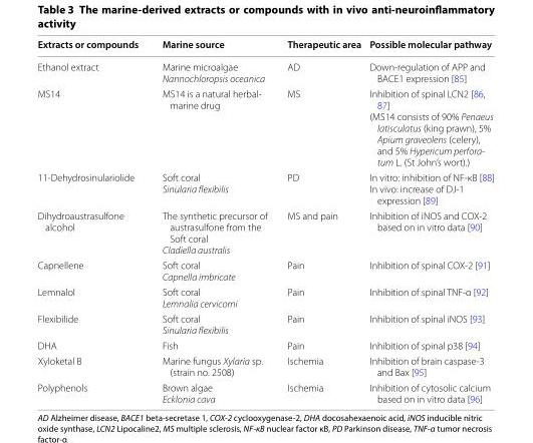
<table><thead><tr><td>Extracts or compounds</td><td>Marine source</td><td>Therapeutic area</td><td>Possible molecular pathway</td></tr></thead><tbody><tr><td>Ethanol extract</td><td>Marine microalgae Nannochloropsis oceanica</td><td>AD</td><td>Down‑regulation of APP and BACE1 expression [85]</td></tr><tr><td>MS14</td><td>MS14 is a natural herbal‑ marine drug</td><td>MS</td><td>Inhibition of spinal LCN2 [86, 87] (MS14 consists of 90% Penaeus latisculatus (king prawn), 5% Apium graveolens (celery), and 5% Hypericum perfora- tum L. (St John’s wort).)</td></tr><tr><td>11‑Dehydrosinulariolide</td><td>Soft coral Sinularia flexibilis</td><td>PD</td><td>In vitro: inhibition of NF‑κB [88] In vivo: increase of DJ‑1 expression [89]</td></tr><tr><td>Dihydroaustrasulfone alcohol</td><td>The synthetic precursor of austrasulfone from the Soft coral Cladiella australis</td><td>MS and pain</td><td>Inhibition of iNOS and COX‑2 based on in vitro data [90]</td></tr><tr><td>Capnellene</td><td>Soft coral Capnella imbricate</td><td>Pain</td><td>Inhibition of spinal COX‑2 [91]</td></tr><tr><td>Lemnalol</td><td>Soft coral Lemnalia cervicorni</td><td>Pain</td><td>Inhibition of spinal TNF‑α [92]</td></tr><tr><td>Flexibilide</td><td>Soft coral Sinularia flexibilis</td><td>Pain</td><td>Inhibition of spinal iNOS [93]</td></tr><tr><td>DHA</td><td>Fish</td><td>Pain</td><td>Inhibition of spinal p38 [94]</td></tr><tr><td>Xyloketal B</td><td>Marine fungus Xylaria sp. (strain no. 2508)</td><td>Ischemia</td><td>Inhibition of brain caspase‑3 and Bax [95]</td></tr><tr><td>Polyphenols</td><td>Brown algae Ecklonia cava</td><td>Ischemia</td><td>Inhibition of cytosolic calcium based on in vitro data [96]</td></tr></tbody></table>